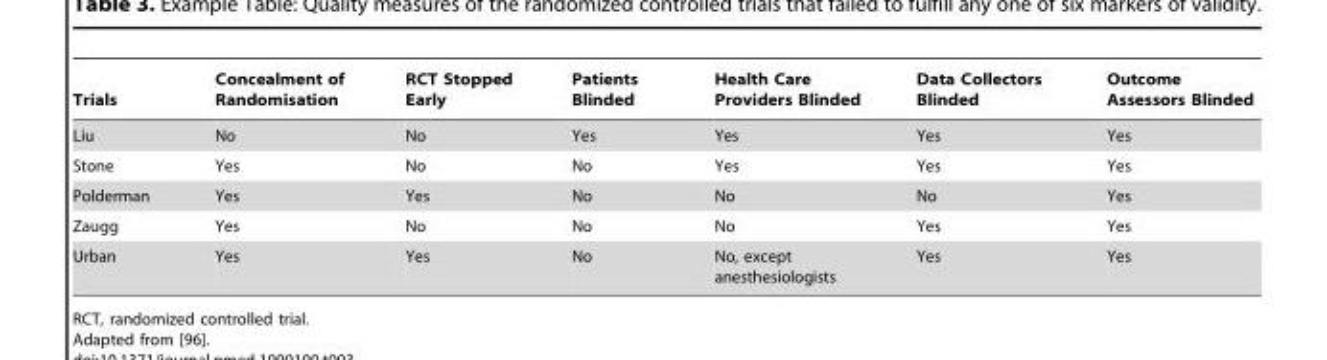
<table><thead><tr><td>Trials</td><td>Concealment of Randomisation</td><td>RCT Stopped Early</td><td>Patients Blinded</td><td>Health Care Providers Blinded</td><td>Data Collectors Blinded</td><td>Outcome Assessors Blinded</td></tr></thead><tbody><tr><td>Liu</td><td>No</td><td>No</td><td>Yes</td><td>Yes</td><td>Yes</td><td>Yes</td></tr><tr><td>Stone</td><td>Yes</td><td>No</td><td>No</td><td>Yes</td><td>Yes</td><td>Yes</td></tr><tr><td>Polderman</td><td>Yes</td><td>Yes</td><td>No</td><td>No</td><td>No</td><td>Yes</td></tr><tr><td>Zaugg</td><td>Yes</td><td>No</td><td>No</td><td>No</td><td>Yes</td><td>Yes</td></tr><tr><td>Urban</td><td>Yes</td><td>Yes</td><td>No</td><td>No, except anesthesiologists</td><td>Yes</td><td>Yes</td></tr></tbody></table>